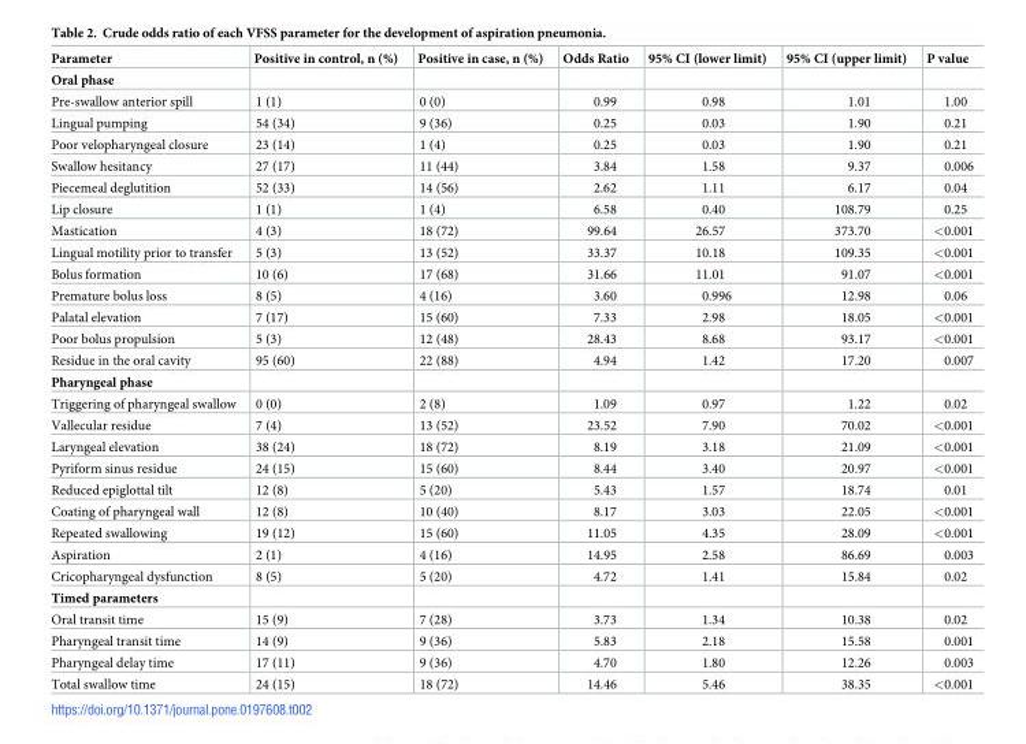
<table><thead><tr><td>Parameter</td><td>Positive in control, n (%)</td><td>Positive in case, n (%)</td><td>Odds Ratio</td><td>95% CI (lower limit)</td><td>95% CI (upper limit)</td><td>P value</td></tr></thead><tbody><tr><td colspan="7">Oral phase</td></tr><tr><td>Pre-swallow anterior spill</td><td>1 (1)</td><td>0 (0)</td><td>0.99</td><td>0.98</td><td>1.01</td><td>1.00</td></tr><tr><td>Lingual pumping</td><td>54 (34)</td><td>9 (36)</td><td>0.25</td><td>0.03</td><td>1.90</td><td>0.21</td></tr><tr><td>Poor velopharyngeal closure</td><td>23 (14)</td><td>1 (4)</td><td>0.25</td><td>0.03</td><td>1.90</td><td>0.21</td></tr><tr><td>Swallow hesitancy</td><td>27 (17)</td><td>11 (44)</td><td>3.84</td><td>1.58</td><td>9.37</td><td>0.006</td></tr><tr><td>Piecemeal deglutition</td><td>52 (33)</td><td>14 (56)</td><td>2.62</td><td>1.11</td><td>6.17</td><td>0.04</td></tr><tr><td>Lip closure</td><td>1 (1)</td><td>1 (4)</td><td>6.58</td><td>0.40</td><td>108.79</td><td>0.25</td></tr><tr><td>Mastication</td><td>4 (3)</td><td>18 (72)</td><td>99.64</td><td>26.57</td><td>373.70</td><td>&lt;0.001</td></tr><tr><td>Lingual motility prior to transfer</td><td>5 (3)</td><td>13 (52)</td><td>33.37</td><td>10.18</td><td>109.35</td><td>&lt;0.001</td></tr><tr><td>Bolus formation</td><td>10 (6)</td><td>17 (68)</td><td>31.66</td><td>11.01</td><td>91.07</td><td>&lt;0.001</td></tr><tr><td>Premature bolus loss</td><td>8 (5)</td><td>4 (16)</td><td>3.60</td><td>0.996</td><td>12.98</td><td>0.06</td></tr><tr><td>Palatal elevation</td><td>7 (17)</td><td>15 (60)</td><td>7.33</td><td>2.98</td><td>18.05</td><td>&lt;0.001</td></tr><tr><td>Poor bolus propulsion</td><td>5 (3)</td><td>12 (48)</td><td>28.43</td><td>8.68</td><td>93.17</td><td>&lt;0.001</td></tr><tr><td>Residue in the oral cavity</td><td>95 (60)</td><td>22 (88)</td><td>4.94</td><td>1.42</td><td>17.20</td><td>0.007</td></tr><tr><td colspan="7">Pharyngeal phase</td></tr><tr><td>Triggering of pharyngeal swallow</td><td>0 (0)</td><td>2 (8)</td><td>1.09</td><td>0.97</td><td>1.22</td><td>0.02</td></tr><tr><td>Vallecular residue</td><td>7 (4)</td><td>13 (52)</td><td>23.52</td><td>7.90</td><td>70.02</td><td>&lt;0.001</td></tr><tr><td>Laryngeal elevation</td><td>38 (24)</td><td>18 (72)</td><td>8.19</td><td>3.18</td><td>21.09</td><td>&lt;0.001</td></tr><tr><td>Pyriform sinus residue</td><td>24 (15)</td><td>15 (60)</td><td>8.44</td><td>3.40</td><td>20.97</td><td>&lt;0.001</td></tr><tr><td>Reduced epiglottal tilt</td><td>12 (8)</td><td>5 (20)</td><td>5.43</td><td>1.57</td><td>18.74</td><td>0.01</td></tr><tr><td>Coating of pharyngeal wall</td><td>12 (8)</td><td>10 (40)</td><td>8.17</td><td>3.03</td><td>22.05</td><td>&lt;0.001</td></tr><tr><td>Repeated swallowing</td><td>19 (12)</td><td>15 (60)</td><td>11.05</td><td>4.35</td><td>28.09</td><td>&lt;0.001</td></tr><tr><td>Aspiration</td><td>2 (1)</td><td>4 (16)</td><td>14.95</td><td>2.58</td><td>86.69</td><td>0.003</td></tr><tr><td>Cricopharyngeal dysfunction</td><td>8 (5)</td><td>5 (20)</td><td>4.72</td><td>1.41</td><td>15.84</td><td>0.02</td></tr><tr><td colspan="7">Timed parameters</td></tr><tr><td>Oral transit time</td><td>15 (9)</td><td>7 (28)</td><td>3.73</td><td>1.34</td><td>10.38</td><td>0.02</td></tr><tr><td>Pharyngeal transit time</td><td>14 (9)</td><td>9 (36)</td><td>5.83</td><td>2.18</td><td>15.58</td><td>0.001</td></tr><tr><td>Pharyngeal delay time</td><td>17 (11)</td><td>9 (36)</td><td>4.70</td><td>1.80</td><td>12.26</td><td>0.003</td></tr><tr><td>Total swallow time</td><td>24 (15)</td><td>18 (72)</td><td>14.46</td><td>5.46</td><td>38.35</td><td>&lt;0.001</td></tr></tbody></table>